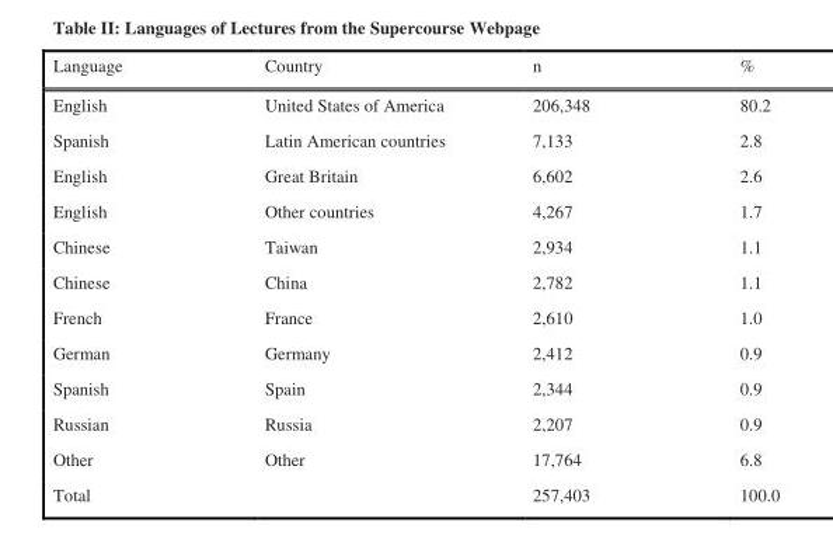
<table><thead><tr><td>Language</td><td>Country</td><td>n</td><td>%</td></tr></thead><tbody><tr><td>English</td><td>United States of America</td><td>206,348</td><td>80.2</td></tr><tr><td>Spanish</td><td>Latin American countries</td><td>7,133</td><td>2.8</td></tr><tr><td>English</td><td>Great Britain</td><td>6,602</td><td>2.6</td></tr><tr><td>English</td><td>Other countries</td><td>4,267</td><td>1.7</td></tr><tr><td>Chinese</td><td>Taiwan</td><td>2,934</td><td>1.1</td></tr><tr><td>Chinese</td><td>China</td><td>2,782</td><td>1.1</td></tr><tr><td>French</td><td>France</td><td>2,610</td><td>1.0</td></tr><tr><td>German</td><td>Germany</td><td>2,412</td><td>0.9</td></tr><tr><td>Spanish</td><td>Spain</td><td>2,344</td><td>0.9</td></tr><tr><td>Russian</td><td>Russia</td><td>2,207</td><td>0.9</td></tr><tr><td>Other</td><td>Other</td><td>17,764</td><td>6.8</td></tr><tr><td>Total</td><td></td><td>257,403</td><td>100.0</td></tr></tbody></table>